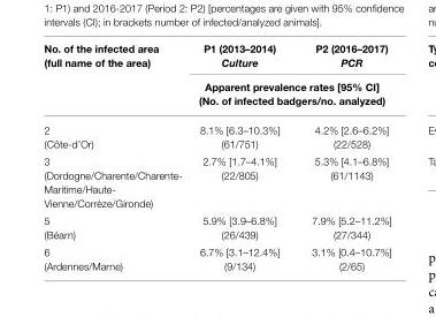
<table><thead><tr><td rowspan="2">No. of the infected area (full name of the area)</td><td>P1 (2013–2014) Culture</td><td>P2 (2016–2017) PCR</td></tr><tr><td colspan="2">Apparent prevalence rates [95% CI] (No. of infected badgers/no. analyzed)</td></tr></thead><tbody><tr><td>2 (Côte-d’Or)</td><td>8.1% [6.3–10.3%] (61/751)</td><td>4.2% [2.6–6.2%] (22/528)</td></tr><tr><td>3 (Dordogne/Charente/Charente- Maritime/Haute- Vienne/Corrèze/Gironde)</td><td>2.7% [1.7–4.1%] (22/805)</td><td>5.3% [4.1–6.8%] (61/1143)</td></tr><tr><td>5 (Béarn)</td><td>5.9% [3.9–6.8%] (26/439)</td><td>7.9% [5.2–11.2%] (27/344)</td></tr><tr><td>6 (Ardennes/Marne)</td><td>6.7% [3.1–12.4%] (9/134)</td><td>3.1% [0.4–10.7%] (2/65)</td></tr></tbody></table>